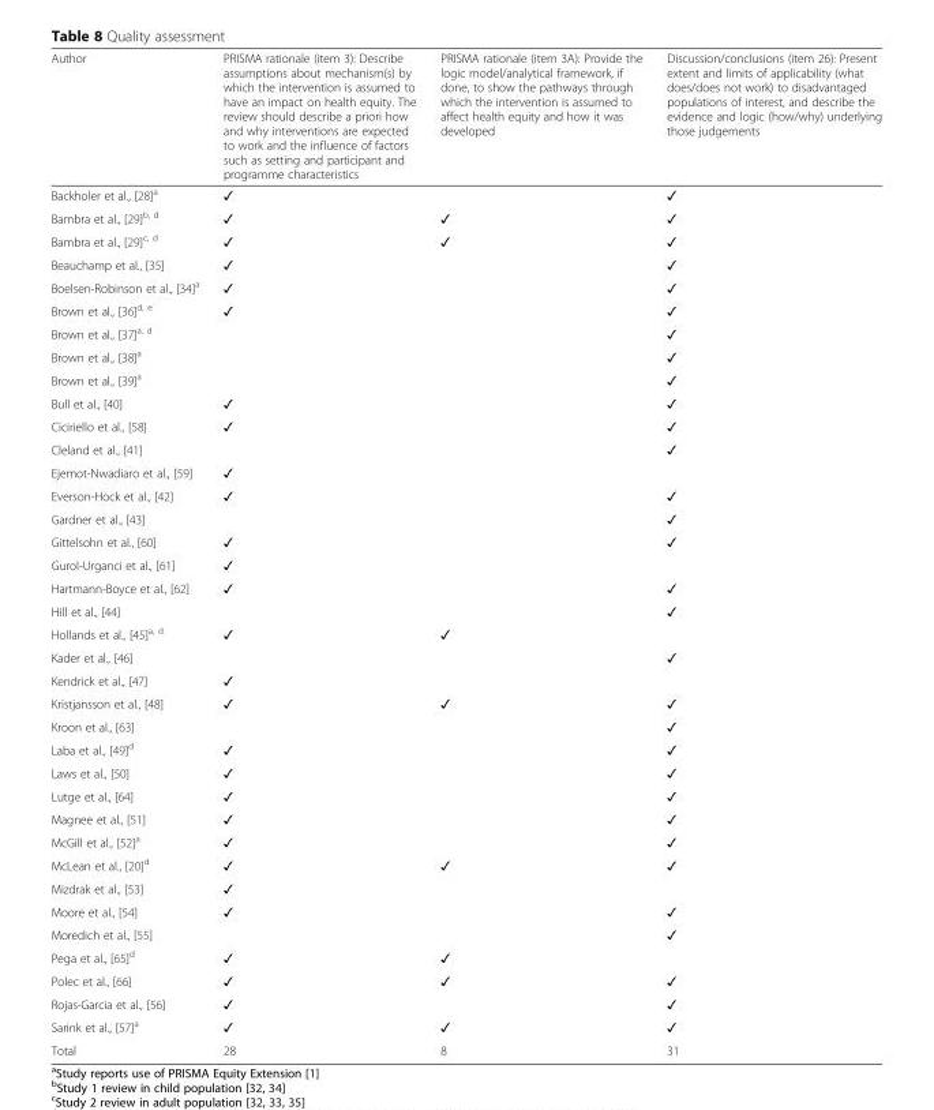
<table><thead><tr><td>Author</td><td>PRISMA rationale (item 3): Describe assumptions about mechanism(s) by which the intervention is assumed to have an impact on health equity. The review should describe a priori how and why interventions are expected to work and the influence of factors such as setting and participant and programme characteristics</td><td>PRISMA rationale (item 3A): Provide the logic model/analytical framework, if done, to show the pathways through which the intervention is assumed to affect health equity and how it was developed</td><td>Discussion/conclusions (item 26): Present extent and limits of applicability (what does/does not work) to disadvantaged populations of interest, and describe the evidence and logic (how/why) underlying those judgements</td></tr></thead><tbody><tr><td>Backholer et al., [28]<sup>a</sup></td><td>✓</td><td></td><td>✓</td></tr><tr><td>Bambra et al., [29]<sup>b, d</sup></td><td>✓</td><td>✓</td><td>✓</td></tr><tr><td>Bambra et al., [29]<sup>c, d</sup></td><td>✓</td><td>✓</td><td>✓</td></tr><tr><td>Beauchamp et al., [35]</td><td>✓</td><td></td><td>✓</td></tr><tr><td>Boelsen-Robinson et al., [34]<sup>a</sup></td><td>✓</td><td></td><td>✓</td></tr><tr><td>Brown et al., [36]<sup>d, e</sup></td><td>✓</td><td></td><td>✓</td></tr><tr><td>Brown et al., [37]<sup>a, d</sup></td><td></td><td></td><td>✓</td></tr><tr><td>Brown et al., [38]<sup>a</sup></td><td></td><td></td><td>✓</td></tr><tr><td>Brown et al., [39]<sup>a</sup></td><td></td><td></td><td>✓</td></tr><tr><td>Bull et al., [40]</td><td>✓</td><td></td><td>✓</td></tr><tr><td>Ciciriello et al., [58]</td><td>✓</td><td></td><td>✓</td></tr><tr><td>Cleland et al., [41]</td><td></td><td></td><td>✓</td></tr><tr><td>Ejemot-Nwadiaro et al., [59]</td><td>✓</td><td></td><td></td></tr><tr><td>Everson-Hock et al., [42]</td><td>✓</td><td></td><td>✓</td></tr><tr><td>Gardner et al., [43]</td><td></td><td></td><td>✓</td></tr><tr><td>Gittelsohn et al., [60]</td><td>✓</td><td></td><td>✓</td></tr><tr><td>Gurol-Urganci et al., [61]</td><td>✓</td><td></td><td></td></tr><tr><td>Hartmann-Boyce et al., [62]</td><td>✓</td><td></td><td>✓</td></tr><tr><td>Hill et al., [44]</td><td></td><td></td><td>✓</td></tr><tr><td>Hollands et al., [45]<sup>a, d</sup></td><td>✓</td><td>✓</td><td></td></tr><tr><td>Kader et al., [46]</td><td></td><td></td><td>✓</td></tr><tr><td>Kendrick et al., [47]</td><td>✓</td><td></td><td></td></tr><tr><td>Kristjansson et al., [48]</td><td>✓</td><td>✓</td><td>✓</td></tr><tr><td>Kroon et al., [63]</td><td></td><td></td><td>✓</td></tr><tr><td>Laba et al., [49]<sup>d</sup></td><td>✓</td><td></td><td>✓</td></tr><tr><td>Laws et al., [50]</td><td>✓</td><td></td><td>✓</td></tr><tr><td>Lutge et al., [64]</td><td>✓</td><td></td><td>✓</td></tr><tr><td>Magnee et al., [51]</td><td>✓</td><td></td><td>✓</td></tr><tr><td>McGill et al., [52]<sup>a</sup></td><td>✓</td><td></td><td>✓</td></tr><tr><td>McLean et al., [20]<sup>d</sup></td><td>✓</td><td>✓</td><td>✓</td></tr><tr><td>Mizdrak et al., [53]</td><td>✓</td><td></td><td></td></tr><tr><td>Moore et al., [54]</td><td>✓</td><td></td><td>✓</td></tr><tr><td>Moredich et al., [55]</td><td></td><td></td><td>✓</td></tr><tr><td>Pega et al., [65]<sup>d</sup></td><td>✓</td><td>✓</td><td></td></tr><tr><td>Polec et al., [66]</td><td>✓</td><td>✓</td><td>✓</td></tr><tr><td>Rojas-Garcia et al., [56]</td><td>✓</td><td></td><td>✓</td></tr><tr><td>Sarink et al., [57]<sup>a</sup></td><td>✓</td><td>✓</td><td>✓</td></tr><tr><td>Total</td><td>28</td><td>8</td><td>31</td></tr></tbody></table>